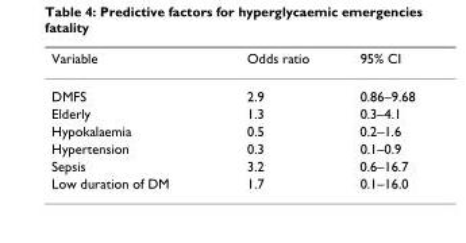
<table><thead><tr><td>Variable</td><td>Odds ratio</td><td>95% CI</td></tr></thead><tbody><tr><td>DMFS</td><td>2.9</td><td>0.86–9.68</td></tr><tr><td>Elderly</td><td>1.3</td><td>0.3–4.1</td></tr><tr><td>Hypokalaemia</td><td>0.5</td><td>0.2–1.6</td></tr><tr><td>Hypertension</td><td>0.3</td><td>0.1–0.9</td></tr><tr><td>Sepsis</td><td>3.2</td><td>0.6–16.7</td></tr><tr><td>Low duration of DM</td><td>1.7</td><td>0.1–16.0</td></tr></tbody></table>